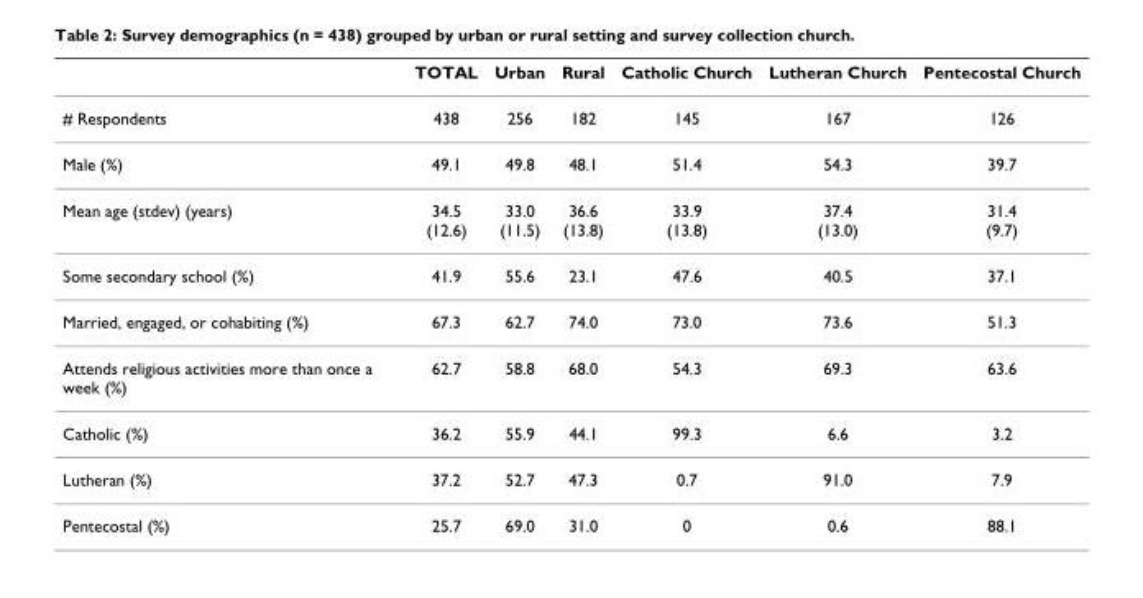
<table><thead><tr><td></td><td>TOTAL</td><td>Urban</td><td>Rural</td><td>Catholic Church</td><td>Lutheran Church</td><td>Pentecostal Church</td></tr></thead><tbody><tr><td># Respondents</td><td>438</td><td>256</td><td>182</td><td>145</td><td>167</td><td>126</td></tr><tr><td>Male (%)</td><td>49.1</td><td>49.8</td><td>48.1</td><td>51.4</td><td>54.3</td><td>39.7</td></tr><tr><td>Mean age (stdev) (years)</td><td>34.5 (12.6)</td><td>33.0 (11.5)</td><td>36.6 (13.8)</td><td>33.9 (13.8)</td><td>37.4 (13.0)</td><td>31.4 (9.7)</td></tr><tr><td>Some secondary school (%)</td><td>41.9</td><td>55.6</td><td>23.1</td><td>47.6</td><td>40.5</td><td>37.1</td></tr><tr><td>Married, engaged, or cohabiting (%)</td><td>67.3</td><td>62.7</td><td>74.0</td><td>73.0</td><td>73.6</td><td>51.3</td></tr><tr><td>Attends religious activities more than once a week (%)</td><td>62.7</td><td>58.8</td><td>68.0</td><td>54.3</td><td>69.3</td><td>63.6</td></tr><tr><td>Catholic (%)</td><td>36.2</td><td>55.9</td><td>44.1</td><td>99.3</td><td>6.6</td><td>3.2</td></tr><tr><td>Lutheran (%)</td><td>37.2</td><td>52.7</td><td>47.3</td><td>0.7</td><td>91.0</td><td>7.9</td></tr><tr><td>Pentecostal (%)</td><td>25.7</td><td>69.0</td><td>31.0</td><td>0</td><td>0.6</td><td>88.1</td></tr></tbody></table>